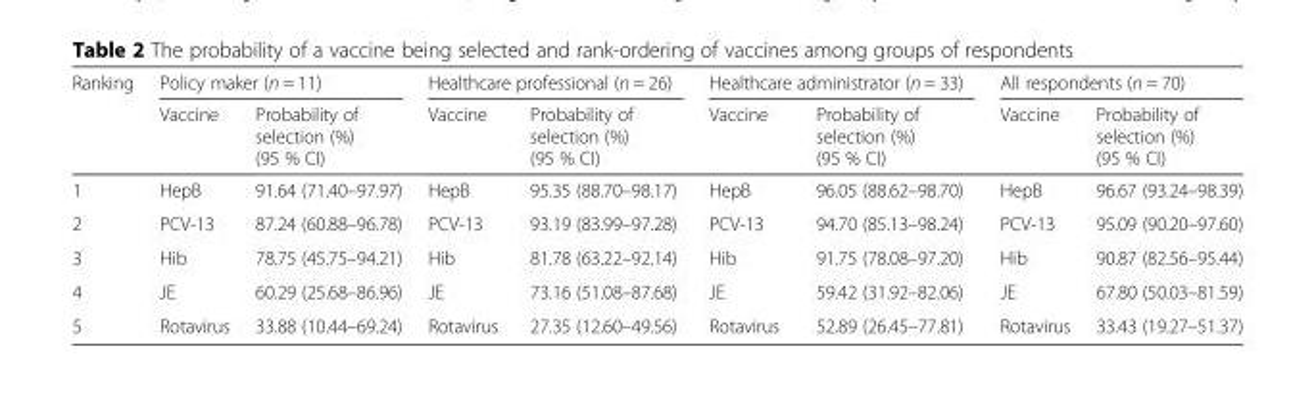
<table><thead><tr><td rowspan="2">Ranking</td><td colspan="2">Policy maker (n = 11)</td><td colspan="2">Healthcare professional (n = 26)</td><td colspan="2">Healthcare administrator (n = 33)</td><td colspan="2">All respondents (n = 70)</td></tr><tr><td>Vaccine</td><td>Probability of selection (%) (95 % CI)</td><td>Vaccine</td><td>Probability of selection (%) (95 % CI)</td><td>Vaccine</td><td>Probability of selection (%) (95 % CI)</td><td>Vaccine</td><td>Probability of selection (%) (95 % CI)</td></tr></thead><tbody><tr><td>1</td><td>HepB</td><td>91.64 (71.40–97.97)</td><td>HepB</td><td>95.35 (88.70–98.17)</td><td>HepB</td><td>96.05 (88.62–98.70)</td><td>HepB</td><td>96.67 (93.24–98.39)</td></tr><tr><td>2</td><td>PCV-13</td><td>87.24 (60.88–96.78)</td><td>PCV-13</td><td>93.19 (83.99–97.28)</td><td>PCV-13</td><td>94.70 (85.13–98.24)</td><td>PCV-13</td><td>95.09 (90.20–97.60)</td></tr><tr><td>3</td><td>Hib</td><td>78.75 (45.75–94.21)</td><td>Hib</td><td>81.78 (63.22–92.14)</td><td>Hib</td><td>91.75 (78.08–97.20)</td><td>Hib</td><td>90.87 (82.56–95.44)</td></tr><tr><td>4</td><td>JE</td><td>60.29 (25.68–86.96)</td><td>JE</td><td>73.16 (51.08–87.68)</td><td>JE</td><td>59.42 (31.92–82.06)</td><td>JE</td><td>67.80 (50.03–81.59)</td></tr><tr><td>5</td><td>Rotavirus</td><td>33.88 (10.44–69.24)</td><td>Rotavirus</td><td>27.35 (12.60–49.56)</td><td>Rotavirus</td><td>52.89 (26.45–77.81)</td><td>Rotavirus</td><td>33.43 (19.27–51.37)</td></tr></tbody></table>